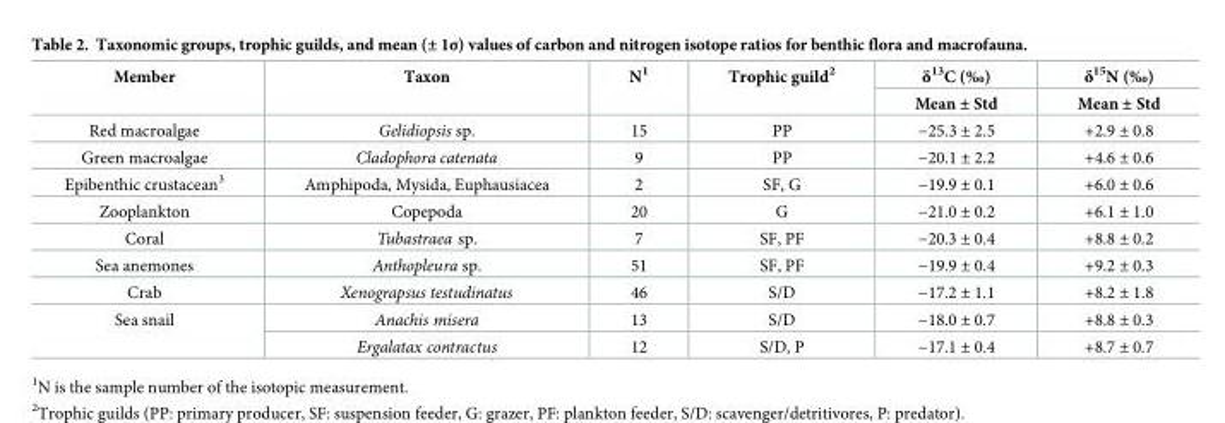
<table><thead><tr><td rowspan="2">Member</td><td rowspan="2">Taxon</td><td rowspan="2">N<sup>1</sup></td><td rowspan="2">Trophic guild<sup>2</sup></td><td rowspan="2">δ<sup>13</sup>C (‰) Mean ± Std</td><td rowspan="2">δ<sup>15</sup>N (‰) Mean ± Std</td></tr><tr></tr></thead><tbody><tr><td>Red macroalgae</td><td>Gelidiopsis sp.</td><td>15</td><td>PP</td><td>−25.3 ± 2.5</td><td>+2.9 ± 0.8</td></tr><tr><td>Green macroalgae</td><td>Cladophora catenata</td><td>9</td><td>PP</td><td>−20.1 ± 2.2</td><td>+4.6 ± 0.6</td></tr><tr><td>Epibenthic crustacean<sup>3</sup></td><td>Amphipoda, Mysida, Euphausiacea</td><td>2</td><td>SF, G</td><td>−19.9 ± 0.1</td><td>+6.0 ± 0.6</td></tr><tr><td>Zooplankton</td><td>Copepoda</td><td>20</td><td>G</td><td>−21.0 ± 0.2</td><td>+6.1 ± 1.0</td></tr><tr><td>Coral</td><td>Tubastraea sp.</td><td>7</td><td>SF, PF</td><td>−20.3 ± 0.4</td><td>+8.8 ± 0.2</td></tr><tr><td>Sea anemones</td><td>Anthopleura sp.</td><td>51</td><td>SF, PF</td><td>−19.9 ± 0.4</td><td>+9.2 ± 0.3</td></tr><tr><td>Crab</td><td>Xenograpsus testudinatus</td><td>46</td><td>S/D</td><td>−17.2 ± 1.1</td><td>+8.2 ± 1.8</td></tr><tr><td rowspan="2">Sea snail</td><td>Anachis misera</td><td>13</td><td>S/D</td><td>−18.0 ± 0.7</td><td>+8.8 ± 0.3</td></tr><tr><td>Ergalatax contractus</td><td>12</td><td>S/D, P</td><td>−17.1 ± 0.4</td><td>+8.7 ± 0.7</td></tr></tbody></table>